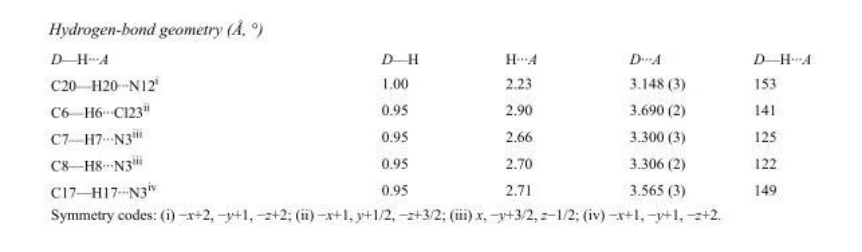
<table><tbody><tr><td>D—H···A</td><td>D—H</td><td>H···A</td><td>D···A</td><td>D—H···A</td></tr><tr><td>C20—H20···N12<sup>i</sup></td><td>1.00</td><td>2.23</td><td>3.148 (3)</td><td>153</td></tr><tr><td>C6—H6···Cl23<sup>ii</sup></td><td>0.95</td><td>2.90</td><td>3.690 (2)</td><td>141</td></tr><tr><td>C7—H7···N3<sup>iii</sup></td><td>0.95</td><td>2.66</td><td>3.300 (3)</td><td>125</td></tr><tr><td>C8—H8···N3<sup>iii</sup></td><td>0.95</td><td>2.70</td><td>3.306 (2)</td><td>122</td></tr><tr><td>C17—H17···N3<sup>iv</sup></td><td>0.95</td><td>2.71</td><td>3.565 (3)</td><td>149</td></tr></tbody></table>